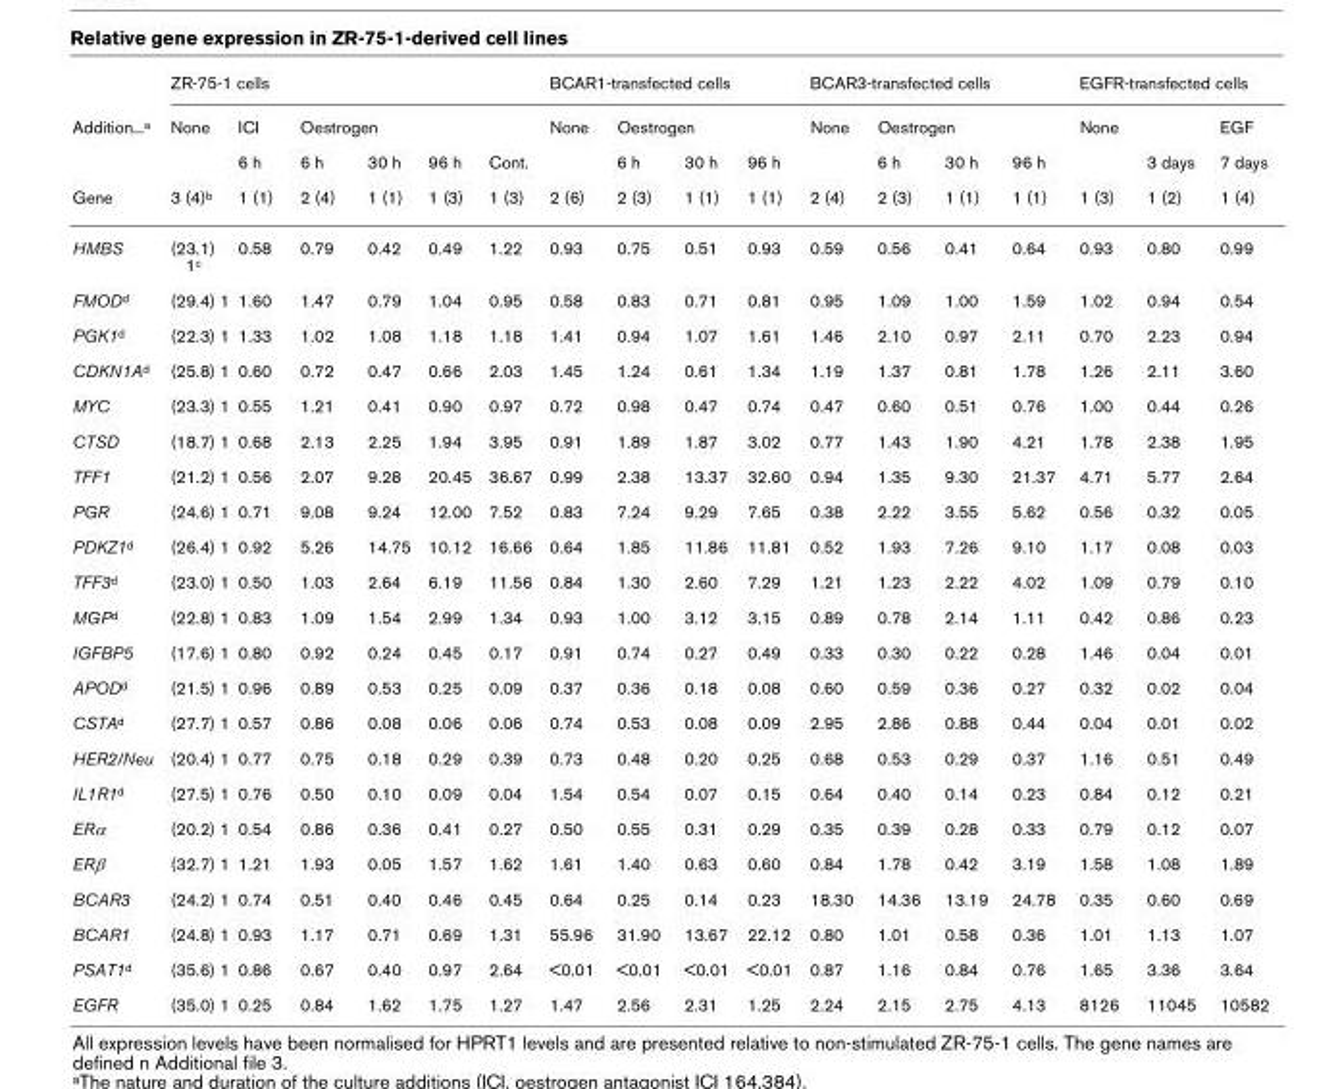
<table><thead><tr><td rowspan="4">Addition...a Gene</td><td colspan="6">ZR-75-1 cells</td><td colspan="4">BCAR1-transfected cells</td><td colspan="4">BCAR3-transfected cells</td><td colspan="3">EGFR-transfected cells</td></tr><tr><td rowspan="3">None 3 (4)b</td><td rowspan="3">ICI 6 h 1 (1)</td><td colspan="4">Oestrogen</td><td rowspan="3">None 2 (6)</td><td colspan="3">Oestrogen</td><td rowspan="3">None 2 (4)</td><td colspan="3">Oestrogen</td><td colspan="2">None</td><td rowspan="3">EGF 7 days 1 (4)</td></tr><tr><td rowspan="2">6 h 2 (4)</td><td rowspan="2">30 h 1 (1)</td><td rowspan="2">96 h 1 (3)</td><td rowspan="2">Cont. 1 (3)</td><td rowspan="2">6 h 2 (3)</td><td rowspan="2">30 h 1 (1)</td><td rowspan="2">96 h 1 (1)</td><td rowspan="2">6 h 2 (3)</td><td rowspan="2">30 h 1 (1)</td><td rowspan="2">96 h 1 (1)</td><td rowspan="2">1 (3)</td><td rowspan="2">3 days 1 (2)</td></tr><tr></tr></thead><tbody><tr><td>HMBS</td><td>(23.1) 1c</td><td>0.58</td><td>0.79</td><td>0.42</td><td>0.49</td><td>1.22</td><td>0.93</td><td>0.75</td><td>0.51</td><td>0.93</td><td>0.59</td><td>0.56</td><td>0.41</td><td>0.64</td><td>0.93</td><td>0.80</td><td>0.99</td></tr><tr><td>FMODd</td><td>(29.4) 1</td><td>1.60</td><td>1.47</td><td>0.79</td><td>1.04</td><td>0.95</td><td>0.58</td><td>0.83</td><td>0.71</td><td>0.81</td><td>0.95</td><td>1.09</td><td>1.00</td><td>1.59</td><td>1.02</td><td>0.94</td><td>0.54</td></tr><tr><td>PGK1d</td><td>(22.3) 1</td><td>1.33</td><td>1.02</td><td>1.08</td><td>1.18</td><td>1.18</td><td>1.41</td><td>0.94</td><td>1.07</td><td>1.61</td><td>1.46</td><td>2.10</td><td>0.97</td><td>2.11</td><td>0.70</td><td>2.23</td><td>0.94</td></tr><tr><td>CDKN1Ad</td><td>(25.8) 1</td><td>0.60</td><td>0.72</td><td>0.47</td><td>0.66</td><td>2.03</td><td>1.45</td><td>1.24</td><td>0.61</td><td>1.34</td><td>1.19</td><td>1.37</td><td>0.81</td><td>1.78</td><td>1.26</td><td>2.11</td><td>3.60</td></tr><tr><td>MYC</td><td>(23.3) 1</td><td>0.55</td><td>1.21</td><td>0.41</td><td>0.90</td><td>0.97</td><td>0.72</td><td>0.98</td><td>0.47</td><td>0.74</td><td>0.47</td><td>0.60</td><td>0.51</td><td>0.76</td><td>1.00</td><td>0.44</td><td>0.26</td></tr><tr><td>CTSD</td><td>(18.7) 1</td><td>0.68</td><td>2.13</td><td>2.25</td><td>1.94</td><td>3.95</td><td>0.91</td><td>1.89</td><td>1.87</td><td>3.02</td><td>0.77</td><td>1.43</td><td>1.90</td><td>4.21</td><td>1.78</td><td>2.38</td><td>1.95</td></tr><tr><td>TFF1</td><td>(21.2) 1</td><td>0.56</td><td>2.07</td><td>9.28</td><td>20.45</td><td>36.67</td><td>0.99</td><td>2.38</td><td>13.37</td><td>32.60</td><td>0.94</td><td>1.35</td><td>9.30</td><td>21.37</td><td>4.71</td><td>5.77</td><td>2.64</td></tr><tr><td>PGR</td><td>(24.6) 1</td><td>0.71</td><td>9.08</td><td>9.24</td><td>12.00</td><td>7.52</td><td>0.83</td><td>7.24</td><td>9.29</td><td>7.65</td><td>0.38</td><td>2.22</td><td>3.55</td><td>5.62</td><td>0.56</td><td>0.32</td><td>0.05</td></tr><tr><td>PDKZ1d</td><td>(26.4) 1</td><td>0.92</td><td>5.26</td><td>14.75</td><td>10.12</td><td>16.66</td><td>0.64</td><td>1.85</td><td>11.86</td><td>11.81</td><td>0.52</td><td>1.93</td><td>7.26</td><td>9.10</td><td>1.17</td><td>0.08</td><td>0.03</td></tr><tr><td>TFF3d</td><td>(23.0) 1</td><td>0.50</td><td>1.03</td><td>2.64</td><td>6.19</td><td>11.56</td><td>0.84</td><td>1.30</td><td>2.60</td><td>7.29</td><td>1.21</td><td>1.23</td><td>2.22</td><td>4.02</td><td>1.09</td><td>0.79</td><td>0.10</td></tr><tr><td>MGPd</td><td>(22.8) 1</td><td>0.83</td><td>1.09</td><td>1.54</td><td>2.99</td><td>1.34</td><td>0.93</td><td>1.00</td><td>3.12</td><td>3.15</td><td>0.89</td><td>0.78</td><td>2.14</td><td>1.11</td><td>0.42</td><td>0.86</td><td>0.23</td></tr><tr><td>IGFBP5</td><td>(17.6) 1</td><td>0.80</td><td>0.92</td><td>0.24</td><td>0.45</td><td>0.17</td><td>0.91</td><td>0.74</td><td>0.27</td><td>0.49</td><td>0.33</td><td>0.30</td><td>0.22</td><td>0.28</td><td>1.46</td><td>0.04</td><td>0.01</td></tr><tr><td>APODd</td><td>(21.5) 1</td><td>0.96</td><td>0.89</td><td>0.53</td><td>0.25</td><td>0.09</td><td>0.37</td><td>0.36</td><td>0.18</td><td>0.08</td><td>0.60</td><td>0.59</td><td>0.36</td><td>0.27</td><td>0.32</td><td>0.02</td><td>0.04</td></tr><tr><td>CSTAd</td><td>(27.7) 1</td><td>0.57</td><td>0.86</td><td>0.08</td><td>0.06</td><td>0.06</td><td>0.74</td><td>0.53</td><td>0.08</td><td>0.09</td><td>2.95</td><td>2.86</td><td>0.88</td><td>0.44</td><td>0.04</td><td>0.01</td><td>0.02</td></tr><tr><td>HER2/Neu</td><td>(20.4) 1</td><td>0.77</td><td>0.75</td><td>0.18</td><td>0.29</td><td>0.39</td><td>0.73</td><td>0.48</td><td>0.20</td><td>0.25</td><td>0.68</td><td>0.53</td><td>0.29</td><td>0.37</td><td>1.16</td><td>0.51</td><td>0.49</td></tr><tr><td>IL1R1d</td><td>(27.5) 1</td><td>0.76</td><td>0.50</td><td>0.10</td><td>0.09</td><td>0.04</td><td>1.54</td><td>0.54</td><td>0.07</td><td>0.15</td><td>0.64</td><td>0.40</td><td>0.14</td><td>0.23</td><td>0.84</td><td>0.12</td><td>0.21</td></tr><tr><td>ERα</td><td>(20.2) 1</td><td>0.54</td><td>0.86</td><td>0.36</td><td>0.41</td><td>0.27</td><td>0.50</td><td>0.55</td><td>0.31</td><td>0.29</td><td>0.35</td><td>0.39</td><td>0.28</td><td>0.33</td><td>0.79</td><td>0.12</td><td>0.07</td></tr><tr><td>ERβ</td><td>(32.7) 1</td><td>1.21</td><td>1.93</td><td>0.05</td><td>1.57</td><td>1.62</td><td>1.61</td><td>1.40</td><td>0.63</td><td>0.60</td><td>0.84</td><td>1.78</td><td>0.42</td><td>3.19</td><td>1.58</td><td>1.08</td><td>1.89</td></tr><tr><td>BCAR3</td><td>(24.2) 1</td><td>0.74</td><td>0.51</td><td>0.40</td><td>0.46</td><td>0.45</td><td>0.64</td><td>0.25</td><td>0.14</td><td>0.23</td><td>18.30</td><td>14.36</td><td>13.19</td><td>24.78</td><td>0.35</td><td>0.60</td><td>0.69</td></tr><tr><td>BCAR1</td><td>(24.8) 1</td><td>0.93</td><td>1.17</td><td>0.71</td><td>0.69</td><td>1.31</td><td>55.96</td><td>31.90</td><td>13.67</td><td>22.12</td><td>0.80</td><td>1.01</td><td>0.58</td><td>0.36</td><td>1.01</td><td>1.13</td><td>1.07</td></tr><tr><td>PSAT1d</td><td>(35.6) 1</td><td>0.86</td><td>0.67</td><td>0.40</td><td>0.97</td><td>2.64</td><td>&lt;0.01</td><td>&lt;0.01</td><td>&lt;0.01</td><td>&lt;0.01</td><td>0.87</td><td>1.16</td><td>0.84</td><td>0.76</td><td>1.65</td><td>3.36</td><td>3.64</td></tr><tr><td>EGFR</td><td>(35.0) 1</td><td>0.25</td><td>0.84</td><td>1.62</td><td>1.75</td><td>1.27</td><td>1.47</td><td>2.56</td><td>2.31</td><td>1.25</td><td>2.24</td><td>2.15</td><td>2.75</td><td>4.13</td><td>8126</td><td>11045</td><td>10582</td></tr></tbody></table>